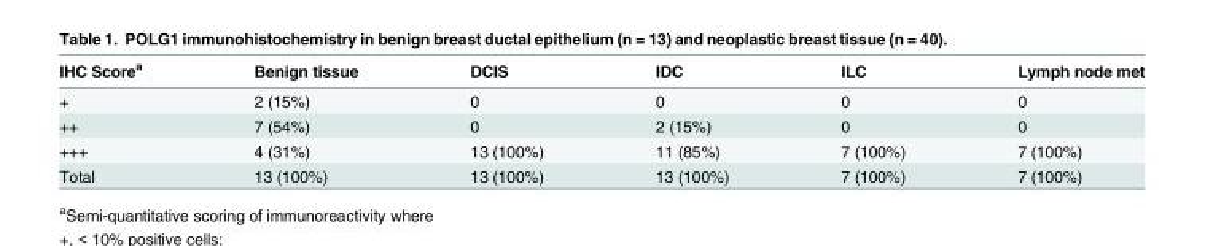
<table><thead><tr><td>IHC Score<sup>a</sup></td><td>Benign tissue</td><td>DCIS</td><td>IDC</td><td>ILC</td><td>Lymph node met</td></tr></thead><tbody><tr><td>+</td><td>2 (15%)</td><td>0</td><td>0</td><td>0</td><td>0</td></tr><tr><td>++</td><td>7 (54%)</td><td>0</td><td>2 (15%)</td><td>0</td><td>0</td></tr><tr><td>+++</td><td>4 (31%)</td><td>13 (100%)</td><td>11 (85%)</td><td>7 (100%)</td><td>7 (100%)</td></tr><tr><td>Total</td><td>13 (100%)</td><td>13 (100%)</td><td>13 (100%)</td><td>7 (100%)</td><td>7 (100%)</td></tr></tbody></table>